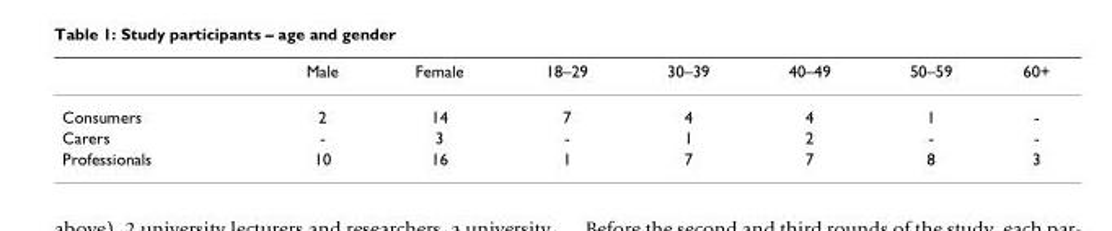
<table><thead><tr><td></td><td>Male</td><td>Female</td><td>18–29</td><td>30–39</td><td>40–49</td><td>50–59</td><td>60+</td></tr></thead><tbody><tr><td>Consumers</td><td>2</td><td>14</td><td>7</td><td>4</td><td>4</td><td>1</td><td>-</td></tr><tr><td>Carers</td><td>-</td><td>3</td><td>-</td><td>1</td><td>2</td><td>-</td><td>-</td></tr><tr><td>Professionals</td><td>10</td><td>16</td><td>1</td><td>7</td><td>7</td><td>8</td><td>3</td></tr></tbody></table>